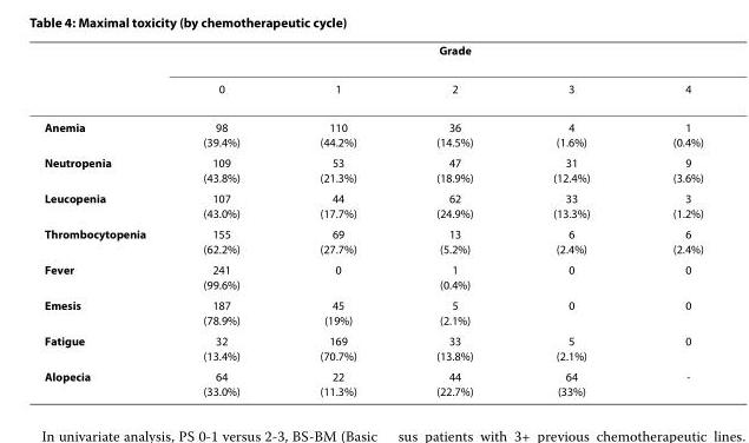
<table><thead><tr><td rowspan="2"></td><td colspan="5">Grade</td></tr><tr><td>0</td><td>1</td><td>2</td><td>3</td><td>4</td></tr></thead><tbody><tr><td>Anemia</td><td>98 (39.4%)</td><td>110 (44.2%)</td><td>36 (14.5%)</td><td>4 (1.6%)</td><td>1 (0.4%)</td></tr><tr><td>Neutropenia</td><td>109 (43.8%)</td><td>53 (21.3%)</td><td>47 (18.9%)</td><td>31 (12.4%)</td><td>9 (3.6%)</td></tr><tr><td>Leucopenia</td><td>107 (43.0%)</td><td>44 (17.7%)</td><td>62 (24.9%)</td><td>33 (13.3%)</td><td>3 (1.2%)</td></tr><tr><td>Thrombocytopenia</td><td>155 (62.2%)</td><td>69 (27.7%)</td><td>13 (5.2%)</td><td>6 (2.4%)</td><td>6 (2.4%)</td></tr><tr><td>Fever</td><td>241 (99.6%)</td><td>0</td><td>1 (0.4%)</td><td>0</td><td>0</td></tr><tr><td>Emesis</td><td>187 (78.9%)</td><td>45 (19%)</td><td>5 (2.1%)</td><td>0</td><td>0</td></tr><tr><td>Fatigue</td><td>32 (13.4%)</td><td>169 (70.7%)</td><td>33 (13.8%)</td><td>5 (2.1%)</td><td>0</td></tr><tr><td>Alopecia</td><td>64 (33.0%)</td><td>22 (11.3%)</td><td>44 (22.7%)</td><td>64 (33%)</td><td>-</td></tr></tbody></table>